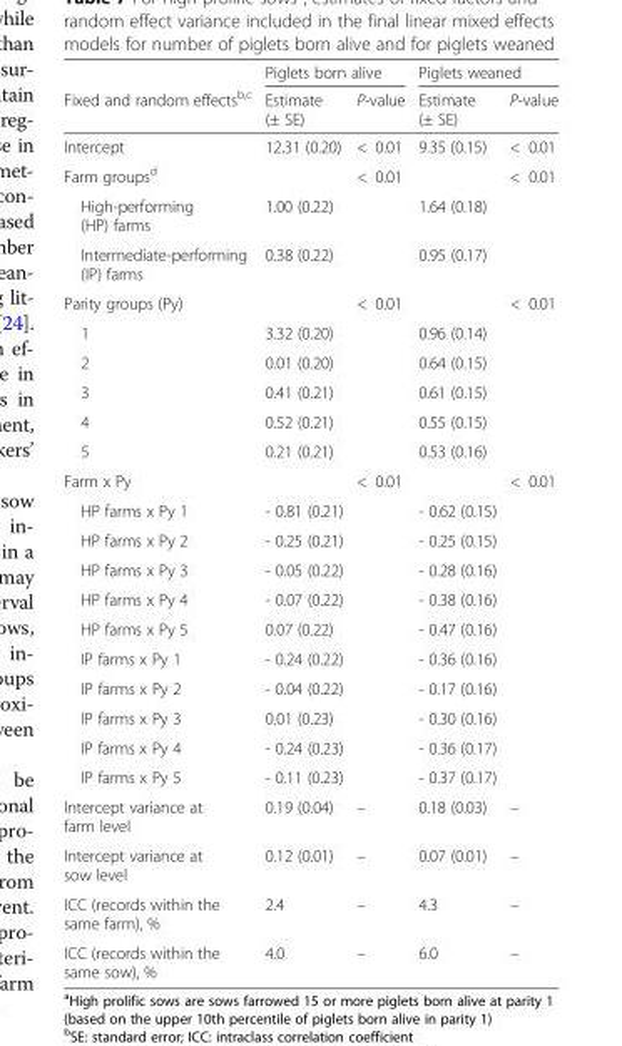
<table><thead><tr><td rowspan="2">Fixed and random effects<sup>b,c</sup></td><td colspan="2">Piglets born alive</td><td colspan="2">Piglets weaned</td></tr><tr><td>Estimate (± SE)</td><td>P-value</td><td>Estimate (± SE)</td><td>P-value</td></tr></thead><tbody><tr><td>Intercept</td><td>12.31 (0.20)</td><td>&lt; 0.01</td><td>9.35 (0.15)</td><td>&lt; 0.01</td></tr><tr><td>Farm groups<sup>d</sup></td><td></td><td>&lt; 0.01</td><td></td><td>&lt; 0.01</td></tr><tr><td>High-performing (HP) farms</td><td>1.00 (0.22)</td><td></td><td>1.64 (0.18)</td><td></td></tr><tr><td>Intermediate-performing (IP) farms</td><td>0.38 (0.22)</td><td></td><td>0.95 (0.17)</td><td></td></tr><tr><td>Parity groups (Py)</td><td></td><td>&lt; 0.01</td><td></td><td>&lt; 0.01</td></tr><tr><td>1</td><td>3.32 (0.20)</td><td></td><td>0.96 (0.14)</td><td></td></tr><tr><td>2</td><td>0.01 (0.20)</td><td></td><td>0.64 (0.15)</td><td></td></tr><tr><td>3</td><td>0.41 (0.21)</td><td></td><td>0.61 (0.15)</td><td></td></tr><tr><td>4</td><td>0.52 (0.21)</td><td></td><td>0.55 (0.15)</td><td></td></tr><tr><td>5</td><td>0.21 (0.21)</td><td></td><td>0.53 (0.16)</td><td></td></tr><tr><td>Farm x Py</td><td></td><td>&lt; 0.01</td><td></td><td>&lt; 0.01</td></tr><tr><td>HP farms x Py 1</td><td>- 0.81 (0.21)</td><td></td><td>- 0.62 (0.15)</td><td></td></tr><tr><td>HP farms x Py 2</td><td>- 0.25 (0.21)</td><td></td><td>- 0.25 (0.15)</td><td></td></tr><tr><td>HP farms x Py 3</td><td>- 0.05 (0.22)</td><td></td><td>- 0.28 (0.16)</td><td></td></tr><tr><td>HP farms x Py 4</td><td>- 0.07 (0.22)</td><td></td><td>- 0.38 (0.16)</td><td></td></tr><tr><td>HP farms x Py 5</td><td>0.07 (0.22)</td><td></td><td>- 0.47 (0.16)</td><td></td></tr><tr><td>IP farms x Py 1</td><td>- 0.24 (0.22)</td><td></td><td>- 0.36 (0.16)</td><td></td></tr><tr><td>IP farms x Py 2</td><td>- 0.04 (0.22)</td><td></td><td>- 0.17 (0.16)</td><td></td></tr><tr><td>IP farms x Py 3</td><td>0.01 (0.23)</td><td></td><td>- 0.30 (0.16)</td><td></td></tr><tr><td>IP farms x Py 4</td><td>- 0.24 (0.23)</td><td></td><td>- 0.36 (0.17)</td><td></td></tr><tr><td>IP farms x Py 5</td><td>- 0.11 (0.23)</td><td></td><td>- 0.37 (0.17)</td><td></td></tr><tr><td>Intercept variance at farm level</td><td>0.19 (0.04)</td><td>–</td><td>0.18 (0.03)</td><td>–</td></tr><tr><td>Intercept variance at sow level</td><td>0.12 (0.01)</td><td>–</td><td>0.07 (0.01)</td><td>–</td></tr><tr><td>ICC (records within the same farm), %</td><td>2.4</td><td>–</td><td>4.3</td><td>–</td></tr><tr><td>ICC (records within the same sow), %</td><td>4.0</td><td>–</td><td>6.0</td><td>–</td></tr></tbody></table>